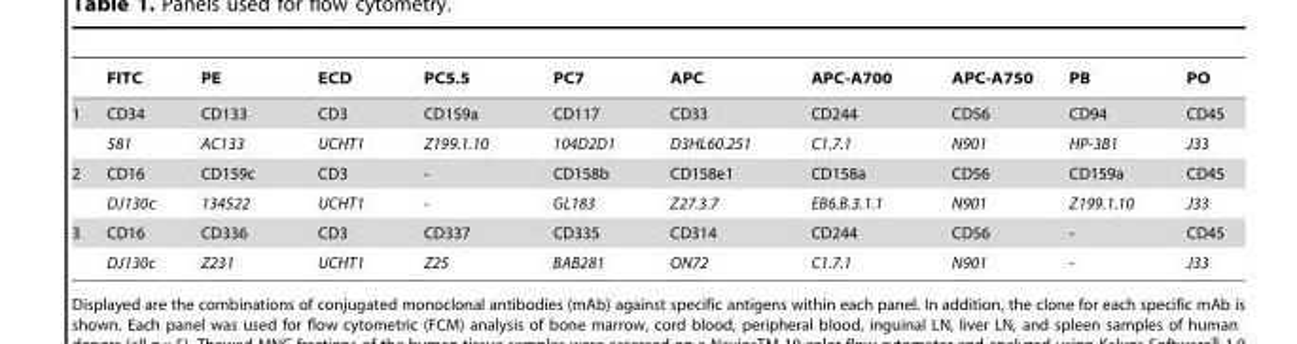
<table><thead><tr><td></td><td>FITC</td><td>PE</td><td>ECD</td><td>PC5.5</td><td>PC7</td><td>APC</td><td>APC-A700</td><td>APC-A750</td><td>PB</td><td>PO</td></tr></thead><tbody><tr><td rowspan="2">1</td><td>CD34</td><td>CD133</td><td>CD3</td><td>CD159a</td><td>CD117</td><td>CD33</td><td>CD244</td><td>CD56</td><td>CD94</td><td>CD45</td></tr><tr><td>581</td><td>AC133</td><td>UCHT1</td><td>Z199.1.10</td><td>104D2D1</td><td>D3HL60.251</td><td>C1.7.1</td><td>N901</td><td>HP-3B1</td><td>J33</td></tr><tr><td rowspan="2">2</td><td>CD16</td><td>CD159c</td><td>CD3</td><td>-</td><td>CD158b</td><td>CD158e1</td><td>CD158a</td><td>CD56</td><td>CD159a</td><td>CD45</td></tr><tr><td>DJ130c</td><td>134522</td><td>UCHT1</td><td>-</td><td>GL183</td><td>Z27.3.7</td><td>EB6.B.3.1.1</td><td>N901</td><td>Z199.1.10</td><td>J33</td></tr><tr><td rowspan="2">3</td><td>CD16</td><td>CD336</td><td>CD3</td><td>CD337</td><td>CD335</td><td>CD314</td><td>CD244</td><td>CD56</td><td>-</td><td>CD45</td></tr><tr><td>DJ130c</td><td>Z231</td><td>UCHT1</td><td>Z25</td><td>BAB281</td><td>ON72</td><td>C1.7.1</td><td>N901</td><td>-</td><td>J33</td></tr></tbody></table>